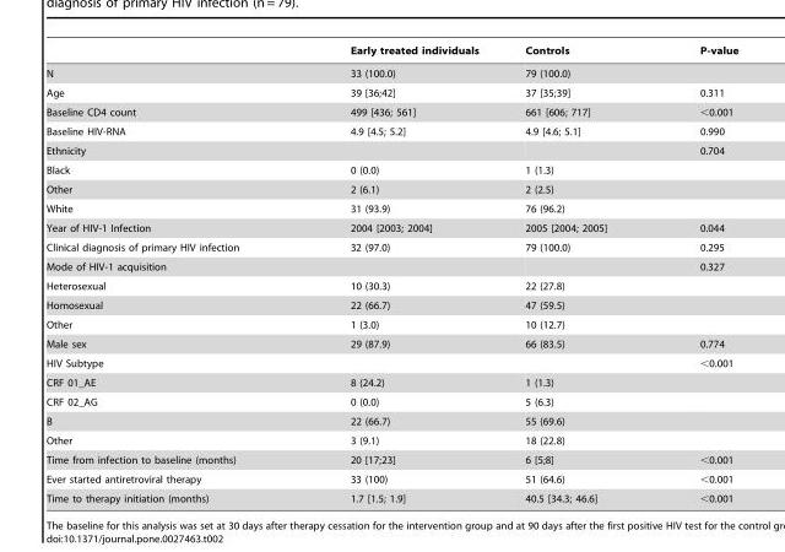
<table><thead><tr><td></td><td>Early treated individuals</td><td>Controls</td><td>P-value</td></tr></thead><tbody><tr><td>N</td><td>33 (100.0)</td><td>79 (100.0)</td><td></td></tr><tr><td>Age</td><td>39 [36;42]</td><td>37 [35;39]</td><td>0.311</td></tr><tr><td>Baseline CD4 count</td><td>499 [436; 561]</td><td>661 [606; 717]</td><td>&lt;0.001</td></tr><tr><td>Baseline HIV-RNA</td><td>4.9 [4.5; 5.2]</td><td>4.9 [4.6; 5.1]</td><td>0.990</td></tr><tr><td>Ethnicity</td><td></td><td></td><td>0.704</td></tr><tr><td>Black</td><td>0 (0.0)</td><td>1 (1.3)</td><td></td></tr><tr><td>Other</td><td>2 (6.1)</td><td>2 (2.5)</td><td></td></tr><tr><td>White</td><td>31 (93.9)</td><td>76 (96.2)</td><td></td></tr><tr><td>Year of HIV-1 Infection</td><td>2004 [2003; 2004]</td><td>2005 [2004; 2005]</td><td>0.044</td></tr><tr><td>Clinical diagnosis of primary HIV infection</td><td>32 (97.0)</td><td>79 (100.0)</td><td>0.295</td></tr><tr><td>Mode of HIV-1 acquisition</td><td></td><td></td><td>0.327</td></tr><tr><td>Heterosexual</td><td>10 (30.3)</td><td>22 (27.8)</td><td></td></tr><tr><td>Homosexual</td><td>22 (66.7)</td><td>47 (59.5)</td><td></td></tr><tr><td>Other</td><td>1 (3.0)</td><td>10 (12.7)</td><td></td></tr><tr><td>Male sex</td><td>29 (87.9)</td><td>66 (83.5)</td><td>0.774</td></tr><tr><td>HIV Subtype</td><td></td><td></td><td>&lt;0.001</td></tr><tr><td>CRF 01_AE</td><td>8 (24.2)</td><td>1 (1.3)</td><td></td></tr><tr><td>CRF 02_AG</td><td>0 (0.0)</td><td>5 (6.3)</td><td></td></tr><tr><td>B</td><td>22 (66.7)</td><td>55 (69.6)</td><td></td></tr><tr><td>Other</td><td>3 (9.1)</td><td>18 (22.8)</td><td></td></tr><tr><td>Time from infection to baseline (months)</td><td>20 [17;23]</td><td>6 [5;8]</td><td>&lt;0.001</td></tr><tr><td>Ever started antiretroviral therapy</td><td>33 (100)</td><td>51 (64.6)</td><td>&lt;0.001</td></tr><tr><td>Time to therapy initiation (months)</td><td>1.7 [1.5; 1.9]</td><td>40.5 [34.3; 46.6]</td><td>&lt;0.001</td></tr></tbody></table>